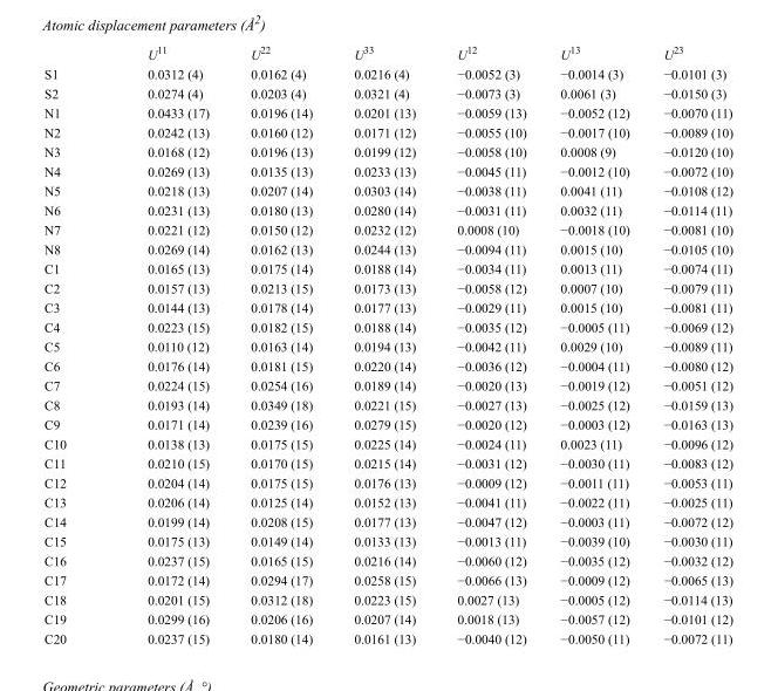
<table><thead><tr><td></td><td>U<sup>11</sup></td><td>U<sup>22</sup></td><td>U<sup>33</sup></td><td>U<sup>12</sup></td><td>U<sup>13</sup></td><td>U<sup>23</sup></td></tr></thead><tbody><tr><td>S1</td><td>0.0312 (4)</td><td>0.0162 (4)</td><td>0.0216 (4)</td><td>−0.0052 (3)</td><td>−0.0014 (3)</td><td>−0.0101 (3)</td></tr><tr><td>S2</td><td>0.0274 (4)</td><td>0.0203 (4)</td><td>0.0321 (4)</td><td>−0.0073 (3)</td><td>0.0061 (3)</td><td>−0.0150 (3)</td></tr><tr><td>N1</td><td>0.0433 (17)</td><td>0.0196 (14)</td><td>0.0201 (13)</td><td>−0.0059 (13)</td><td>−0.0052 (12)</td><td>−0.0070 (11)</td></tr><tr><td>N2</td><td>0.0242 (13)</td><td>0.0160 (12)</td><td>0.0171 (12)</td><td>−0.0055 (10)</td><td>−0.0017 (10)</td><td>−0.0089 (10)</td></tr><tr><td>N3</td><td>0.0168 (12)</td><td>0.0196 (13)</td><td>0.0199 (12)</td><td>−0.0058 (10)</td><td>0.0008 (9)</td><td>−0.0120 (10)</td></tr><tr><td>N4</td><td>0.0269 (13)</td><td>0.0135 (13)</td><td>0.0233 (13)</td><td>−0.0045 (11)</td><td>−0.0012 (10)</td><td>−0.0072 (10)</td></tr><tr><td>N5</td><td>0.0218 (13)</td><td>0.0207 (14)</td><td>0.0303 (14)</td><td>−0.0038 (11)</td><td>0.0041 (11)</td><td>−0.0108 (12)</td></tr><tr><td>N6</td><td>0.0231 (13)</td><td>0.0180 (13)</td><td>0.0280 (14)</td><td>−0.0031 (11)</td><td>0.0032 (11)</td><td>−0.0114 (11)</td></tr><tr><td>N7</td><td>0.0221 (12)</td><td>0.0150 (12)</td><td>0.0232 (12)</td><td>0.0008 (10)</td><td>−0.0018 (10)</td><td>−0.0081 (10)</td></tr><tr><td>N8</td><td>0.0269 (14)</td><td>0.0162 (13)</td><td>0.0244 (13)</td><td>−0.0094 (11)</td><td>0.0015 (10)</td><td>−0.0105 (10)</td></tr><tr><td>C1</td><td>0.0165 (13)</td><td>0.0175 (14)</td><td>0.0188 (14)</td><td>−0.0034 (11)</td><td>0.0013 (11)</td><td>−0.0074 (11)</td></tr><tr><td>C2</td><td>0.0157 (13)</td><td>0.0213 (15)</td><td>0.0173 (13)</td><td>−0.0058 (12)</td><td>0.0007 (10)</td><td>−0.0079 (11)</td></tr><tr><td>C3</td><td>0.0144 (13)</td><td>0.0178 (14)</td><td>0.0177 (13)</td><td>−0.0029 (11)</td><td>0.0015 (10)</td><td>−0.0081 (11)</td></tr><tr><td>C4</td><td>0.0223 (15)</td><td>0.0182 (15)</td><td>0.0188 (14)</td><td>−0.0035 (12)</td><td>−0.0005 (11)</td><td>−0.0069 (12)</td></tr><tr><td>C5</td><td>0.0110 (12)</td><td>0.0163 (14)</td><td>0.0194 (13)</td><td>−0.0042 (11)</td><td>0.0029 (10)</td><td>−0.0089 (11)</td></tr><tr><td>C6</td><td>0.0176 (14)</td><td>0.0181 (15)</td><td>0.0220 (14)</td><td>−0.0036 (12)</td><td>−0.0004 (11)</td><td>−0.0080 (12)</td></tr><tr><td>C7</td><td>0.0224 (15)</td><td>0.0254 (16)</td><td>0.0189 (14)</td><td>−0.0020 (13)</td><td>−0.0019 (12)</td><td>−0.0051 (12)</td></tr><tr><td>C8</td><td>0.0193 (14)</td><td>0.0349 (18)</td><td>0.0221 (15)</td><td>−0.0027 (13)</td><td>−0.0025 (12)</td><td>−0.0159 (13)</td></tr><tr><td>C9</td><td>0.0171 (14)</td><td>0.0239 (16)</td><td>0.0279 (15)</td><td>−0.0020 (12)</td><td>−0.0003 (12)</td><td>−0.0163 (13)</td></tr><tr><td>C10</td><td>0.0138 (13)</td><td>0.0175 (15)</td><td>0.0225 (14)</td><td>−0.0024 (11)</td><td>0.0023 (11)</td><td>−0.0096 (12)</td></tr><tr><td>C11</td><td>0.0210 (15)</td><td>0.0170 (15)</td><td>0.0215 (14)</td><td>−0.0031 (12)</td><td>−0.0030 (11)</td><td>−0.0083 (12)</td></tr><tr><td>C12</td><td>0.0204 (14)</td><td>0.0175 (15)</td><td>0.0176 (13)</td><td>−0.0009 (12)</td><td>−0.0011 (11)</td><td>−0.0053 (11)</td></tr><tr><td>C13</td><td>0.0206 (14)</td><td>0.0125 (14)</td><td>0.0152 (13)</td><td>−0.0041 (11)</td><td>−0.0022 (11)</td><td>−0.0025 (11)</td></tr><tr><td>C14</td><td>0.0199 (14)</td><td>0.0208 (15)</td><td>0.0177 (13)</td><td>−0.0047 (12)</td><td>−0.0003 (11)</td><td>−0.0072 (12)</td></tr><tr><td>C15</td><td>0.0175 (13)</td><td>0.0149 (14)</td><td>0.0133 (13)</td><td>−0.0013 (11)</td><td>−0.0039 (10)</td><td>−0.0030 (11)</td></tr><tr><td>C16</td><td>0.0237 (15)</td><td>0.0165 (15)</td><td>0.0216 (14)</td><td>−0.0060 (12)</td><td>−0.0035 (12)</td><td>−0.0032 (12)</td></tr><tr><td>C17</td><td>0.0172 (14)</td><td>0.0294 (17)</td><td>0.0258 (15)</td><td>−0.0066 (13)</td><td>−0.0009 (12)</td><td>−0.0065 (13)</td></tr><tr><td>C18</td><td>0.0201 (15)</td><td>0.0312 (18)</td><td>0.0223 (15)</td><td>0.0027 (13)</td><td>−0.0005 (12)</td><td>−0.0114 (13)</td></tr><tr><td>C19</td><td>0.0299 (16)</td><td>0.0206 (16)</td><td>0.0207 (14)</td><td>0.0018 (13)</td><td>−0.0057 (12)</td><td>−0.0101 (12)</td></tr><tr><td>C20</td><td>0.0237 (15)</td><td>0.0180 (14)</td><td>0.0161 (13)</td><td>−0.0040 (12)</td><td>−0.0050 (11)</td><td>−0.0072 (11)</td></tr></tbody></table>